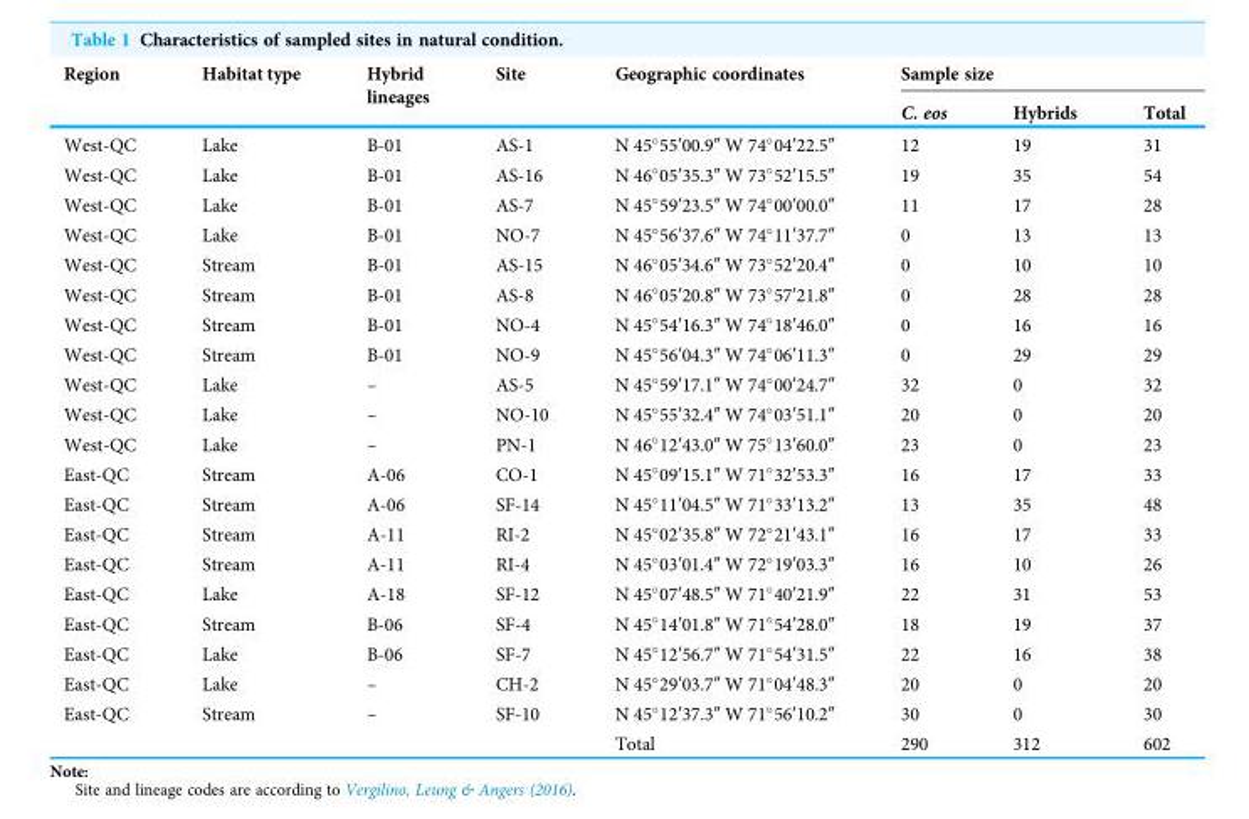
<table><thead><tr><td rowspan="2">Region</td><td rowspan="2">Habitat type</td><td rowspan="2">Hybrid lineages</td><td rowspan="2">Site</td><td rowspan="2">Geographic coordinates</td><td colspan="3">Sample size</td></tr><tr><td>C. eos</td><td>Hybrids</td><td>Total</td></tr></thead><tbody><tr><td>West-QC</td><td>Lake</td><td>B-01</td><td>AS-1</td><td>N 45°55′00.9″ W 74°04′22.5″</td><td>12</td><td>19</td><td>31</td></tr><tr><td>West-QC</td><td>Lake</td><td>B-01</td><td>AS-16</td><td>N 46°05′35.3″ W 73°52′15.5″</td><td>19</td><td>35</td><td>54</td></tr><tr><td>West-QC</td><td>Lake</td><td>B-01</td><td>AS-7</td><td>N 45°59′23.5″ W 74°00′00.0″</td><td>11</td><td>17</td><td>28</td></tr><tr><td>West-QC</td><td>Lake</td><td>B-01</td><td>NO-7</td><td>N 45°56′37.6″ W 74°11′37.7″</td><td>0</td><td>13</td><td>13</td></tr><tr><td>West-QC</td><td>Stream</td><td>B-01</td><td>AS-15</td><td>N 46°05′34.6″ W 73°52′20.4″</td><td>0</td><td>10</td><td>10</td></tr><tr><td>West-QC</td><td>Stream</td><td>B-01</td><td>AS-8</td><td>N 46°05′20.8″ W 73°57′21.8″</td><td>0</td><td>28</td><td>28</td></tr><tr><td>West-QC</td><td>Stream</td><td>B-01</td><td>NO-4</td><td>N 45°54′16.3″ W 74°18′46.0″</td><td>0</td><td>16</td><td>16</td></tr><tr><td>West-QC</td><td>Stream</td><td>B-01</td><td>NO-9</td><td>N 45°56′04.3″ W 74°06′11.3″</td><td>0</td><td>29</td><td>29</td></tr><tr><td>West-QC</td><td>Lake</td><td>–</td><td>AS-5</td><td>N 45°59′17.1″ W 74°00′24.7″</td><td>32</td><td>0</td><td>32</td></tr><tr><td>West-QC</td><td>Lake</td><td>–</td><td>NO-10</td><td>N 45°55′32.4″ W 74°03′51.1″</td><td>20</td><td>0</td><td>20</td></tr><tr><td>West-QC</td><td>Lake</td><td>–</td><td>PN-1</td><td>N 46°12′43.0″ W 75°13′60.0″</td><td>23</td><td>0</td><td>23</td></tr><tr><td>East-QC</td><td>Stream</td><td>A-06</td><td>CO-1</td><td>N 45°09′15.1″ W 71°32′53.3″</td><td>16</td><td>17</td><td>33</td></tr><tr><td>East-QC</td><td>Stream</td><td>A-06</td><td>SF-14</td><td>N 45°11′04.5″ W 71°33′13.2″</td><td>13</td><td>35</td><td>48</td></tr><tr><td>East-QC</td><td>Stream</td><td>A-11</td><td>RI-2</td><td>N 45°02′35.8″ W 72°21′43.1″</td><td>16</td><td>17</td><td>33</td></tr><tr><td>East-QC</td><td>Stream</td><td>A-11</td><td>RI-4</td><td>N 45°03′01.4″ W 72°19′03.3″</td><td>16</td><td>10</td><td>26</td></tr><tr><td>East-QC</td><td>Lake</td><td>A-18</td><td>SF-12</td><td>N 45°07′48.5″ W 71°40′21.9″</td><td>22</td><td>31</td><td>53</td></tr><tr><td>East-QC</td><td>Stream</td><td>B-06</td><td>SF-4</td><td>N 45°14′01.8″ W 71°54′28.0″</td><td>18</td><td>19</td><td>37</td></tr><tr><td>East-QC</td><td>Lake</td><td>B-06</td><td>SF-7</td><td>N 45°12′56.7″ W 71°54′31.5″</td><td>22</td><td>16</td><td>38</td></tr><tr><td>East-QC</td><td>Lake</td><td>–</td><td>CH-2</td><td>N 45°29′03.7″ W 71°04′48.3″</td><td>20</td><td>0</td><td>20</td></tr><tr><td rowspan="2">East-QC</td><td>Stream</td><td>–</td><td>SF-10</td><td>N 45°12′37.3″ W 71°56′10.2″</td><td>30</td><td>0</td><td>30</td></tr><tr><td></td><td></td><td></td><td>Total</td><td>290</td><td>312</td><td>602</td></tr></tbody></table>